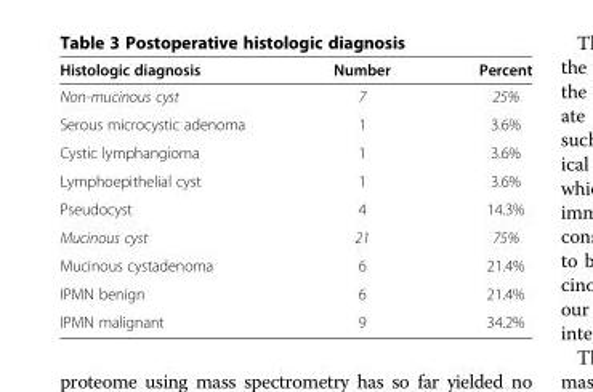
<table><thead><tr><td>Histologic diagnosis</td><td>Number</td><td>Percent</td></tr></thead><tbody><tr><td>Non-mucinous cyst</td><td>7</td><td>25%</td></tr><tr><td>Serous microcystic adenoma</td><td>1</td><td>3.6%</td></tr><tr><td>Cystic lymphangioma</td><td>1</td><td>3.6%</td></tr><tr><td>Lymphoepithelial cyst</td><td>1</td><td>3.6%</td></tr><tr><td>Pseudocyst</td><td>4</td><td>14.3%</td></tr><tr><td>Mucinous cyst</td><td>21</td><td>75%</td></tr><tr><td>Mucinous cystadenoma</td><td>6</td><td>21.4%</td></tr><tr><td>IPMN benign</td><td>6</td><td>21.4%</td></tr><tr><td>IPMN malignant</td><td>9</td><td>34.2%</td></tr></tbody></table>